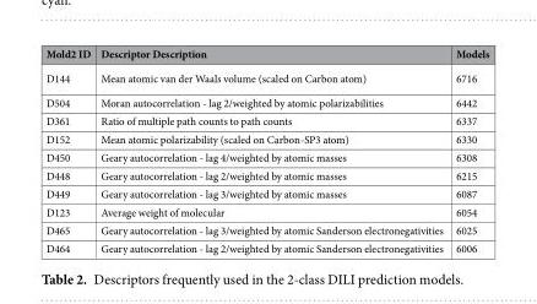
<table><thead><tr><td>Mold2 ID</td><td>Descriptor Description</td><td>Models</td></tr></thead><tbody><tr><td>D144</td><td>Mean atomic van der Waals volume (scaled on Carbon atom)</td><td>6716</td></tr><tr><td>D504</td><td>Moran autocorrelation - lag 2/weighted by atomic polarizabilities</td><td>6442</td></tr><tr><td>D361</td><td>Ratio of multiple path counts to path counts</td><td>6337</td></tr><tr><td>D152</td><td>Mean atomic polarizability (scaled on Carbon-SP3 atom)</td><td>6330</td></tr><tr><td>D450</td><td>Geary autocorrelation - lag 4/weighted by atomic masses</td><td>6308</td></tr><tr><td>D448</td><td>Geary autocorrelation - lag 2/weighted by atomic masses</td><td>6215</td></tr><tr><td>D449</td><td>Geary autocorrelation - lag 3/weighted by atomic masses</td><td>6087</td></tr><tr><td>D123</td><td>Average weight of molecular</td><td>6054</td></tr><tr><td>D465</td><td>Geary autocorrelation - lag 3/weighted by atomic Sanderson electronegativities</td><td>6025</td></tr><tr><td>D464</td><td>Geary autocorrelation - lag 2/weighted by atomic Sanderson electronegativities</td><td>6006</td></tr></tbody></table>